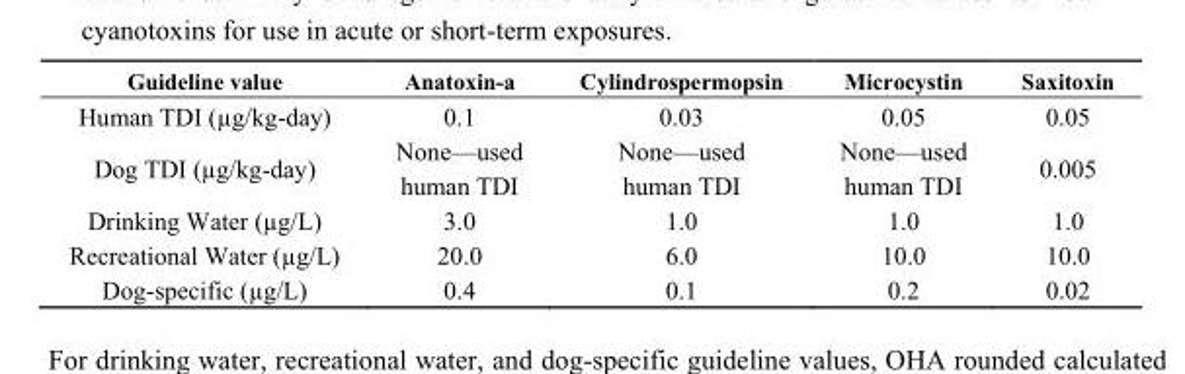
<table><thead><tr><td>Guideline value</td><td>Anatoxin-a</td><td>Cylindrospermopsin</td><td>Microcystin</td><td>Saxitoxin</td></tr></thead><tbody><tr><td>Human TDI (µg/kg-day)</td><td>0.1</td><td>0.03</td><td>0.05</td><td>0.05</td></tr><tr><td>Dog TDI (µg/kg-day)</td><td>None—used human TDI</td><td>None—used human TDI</td><td>None—used human TDI</td><td>0.005</td></tr><tr><td>Drinking Water (µg/L)</td><td>3.0</td><td>1.0</td><td>1.0</td><td>1.0</td></tr><tr><td>Recreational Water (µg/L)</td><td>20.0</td><td>6.0</td><td>10.0</td><td>10.0</td></tr><tr><td>Dog-specific (µg/L)</td><td>0.4</td><td>0.1</td><td>0.2</td><td>0.02</td></tr></tbody></table>